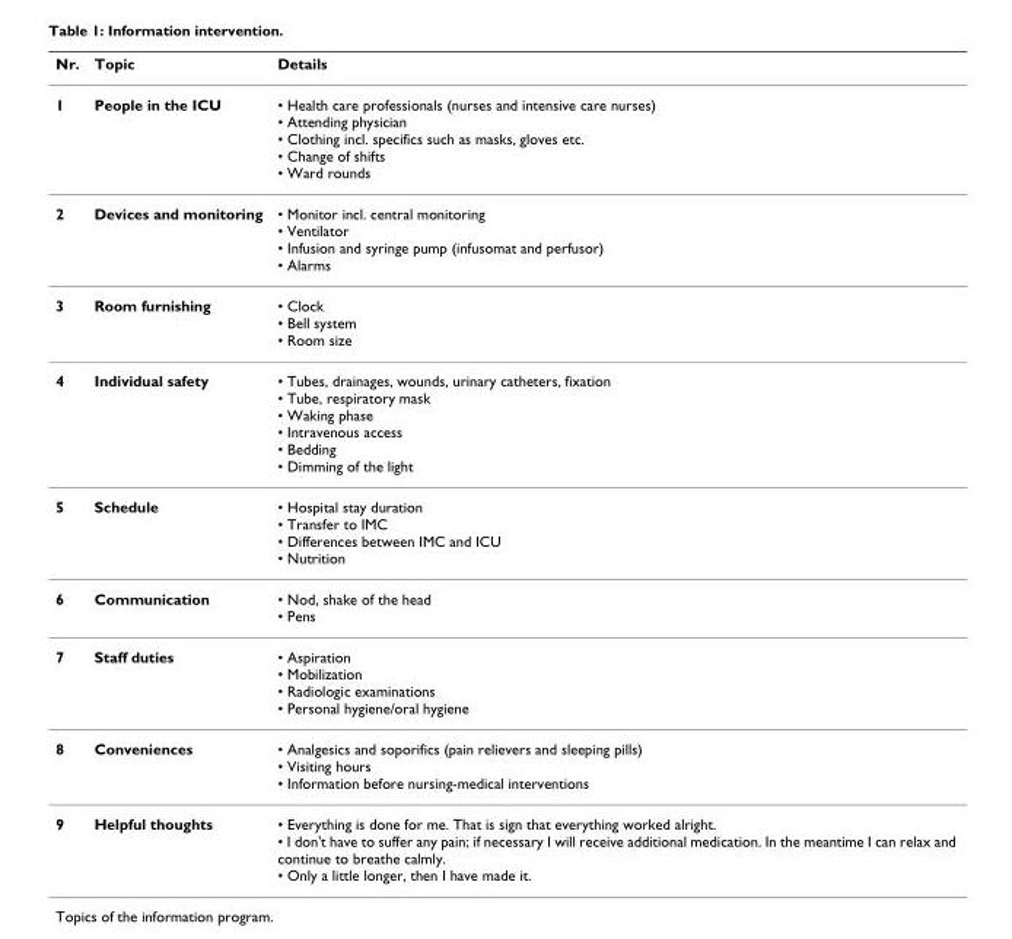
<table><thead><tr><td>Nr.</td><td>Topic</td><td>Details</td></tr></thead><tbody><tr><td>1</td><td>People in the ICU</td><td>• Health care professionals (nurses and intensive care nurses) • Attending physician • Clothing incl. specifics such as masks, gloves etc. • Change of shifts • Ward rounds</td></tr><tr><td>2</td><td>Devices and monitoring</td><td>• Monitor incl. central monitoring • Ventilator • Infusion and syringe pump (infusomat and perfusor) • Alarms</td></tr><tr><td>3</td><td>Room furnishing</td><td>• Clock • Bell system • Room size</td></tr><tr><td>4</td><td>Individual safety</td><td>• Tubes, drainages, wounds, urinary catheters, fixation • Tube, respiratory mask • Waking phase • Intravenous access • Bedding • Dimming of the light</td></tr><tr><td>5</td><td>Schedule</td><td>• Hospital stay duration • Transfer to IMC • Differences between IMC and ICU • Nutrition</td></tr><tr><td>6</td><td>Communication</td><td>• Nod, shake of the head • Pens</td></tr><tr><td>7</td><td>Staff duties</td><td>• Aspiration • Mobilization • Radiologic examinations • Personal hygiene/oral hygiene</td></tr><tr><td>8</td><td>Conveniences</td><td>• Analgesics and soporifics (pain relievers and sleeping pills) • Visiting hours • Information before nursing-medical interventions</td></tr><tr><td>9</td><td>Helpful thoughts</td><td>• Everything is done for me. That is sign that everything worked alright. • I don&#x27;t have to suffer any pain; if necessary I will receive additional medication. In the meantime I can relax and continue to breathe calmly. • Only a little longer, then I have made it.</td></tr></tbody></table>